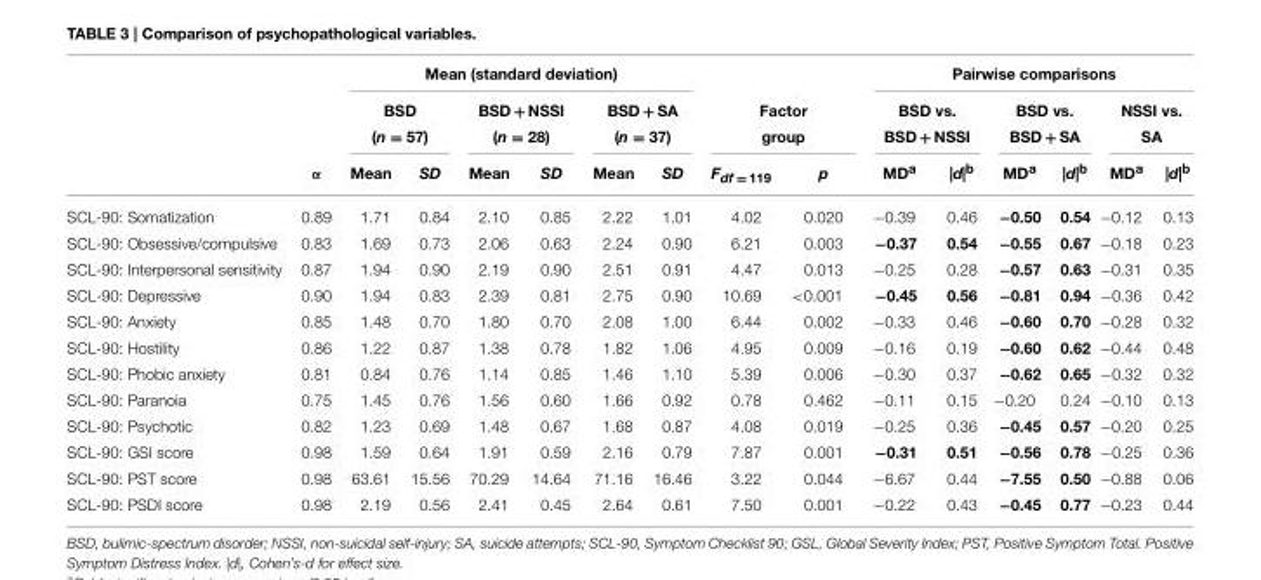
<table><thead><tr><td rowspan="3"></td><td rowspan="3">α</td><td colspan="6">Mean (standard deviation)</td><td></td><td></td><td colspan="6">Pairwise comparisons</td></tr><tr><td colspan="2">BSD (n = 57)</td><td colspan="2">BSD + NSSI (n = 28)</td><td colspan="2">BSD + SA (n = 37)</td><td colspan="2">Factor group</td><td colspan="2">BSD vs. BSD + NSSI</td><td colspan="2">BSD vs. BSD + SA</td><td colspan="2">NSSI vs. SA</td></tr><tr><td>Mean</td><td>SD</td><td>Mean</td><td>SD</td><td>Mean</td><td>SD</td><td>F<sub>df</sub> = 119</td><td>p</td><td>MD<sup>a</sup></td><td>|d|<sup>b</sup></td><td>MD<sup>a</sup></td><td>|d|<sup>b</sup></td><td>MD<sup>a</sup></td><td>|d|<sup>b</sup></td></tr></thead><tbody><tr><td>SCL-90: Somatization</td><td>0.89</td><td>1.71</td><td>0.84</td><td>2.10</td><td>0.85</td><td>2.22</td><td>1.01</td><td>4.02</td><td>0.020</td><td>−0.39</td><td>0.46</td><td>−0.50</td><td>0.54</td><td>−0.12</td><td>0.13</td></tr><tr><td>SCL-90: Obsessive/compulsive</td><td>0.83</td><td>1.69</td><td>0.73</td><td>2.06</td><td>0.63</td><td>2.24</td><td>0.90</td><td>6.21</td><td>0.003</td><td>−0.37</td><td>0.54</td><td>−0.55</td><td>0.67</td><td>−0.18</td><td>0.23</td></tr><tr><td>SCL-90: Interpersonal sensitivity</td><td>0.87</td><td>1.94</td><td>0.90</td><td>2.19</td><td>0.90</td><td>2.51</td><td>0.91</td><td>4.47</td><td>0.013</td><td>−0.25</td><td>0.28</td><td>−0.57</td><td>0.63</td><td>−0.31</td><td>0.35</td></tr><tr><td>SCL-90: Depressive</td><td>0.90</td><td>1.94</td><td>0.83</td><td>2.39</td><td>0.81</td><td>2.75</td><td>0.90</td><td>10.69</td><td>&lt;0.001</td><td>−0.45</td><td>0.56</td><td>−0.81</td><td>0.94</td><td>−0.36</td><td>0.42</td></tr><tr><td>SCL-90: Anxiety</td><td>0.85</td><td>1.48</td><td>0.70</td><td>1.80</td><td>0.70</td><td>2.08</td><td>1.00</td><td>6.44</td><td>0.002</td><td>−0.33</td><td>0.46</td><td>−0.60</td><td>0.70</td><td>−0.28</td><td>0.32</td></tr><tr><td>SCL-90: Hostility</td><td>0.86</td><td>1.22</td><td>0.87</td><td>1.38</td><td>0.78</td><td>1.82</td><td>1.06</td><td>4.95</td><td>0.009</td><td>−0.16</td><td>0.19</td><td>−0.60</td><td>0.62</td><td>−0.44</td><td>0.48</td></tr><tr><td>SCL-90: Phobic anxiety</td><td>0.81</td><td>0.84</td><td>0.76</td><td>1.14</td><td>0.85</td><td>1.46</td><td>1.10</td><td>5.39</td><td>0.006</td><td>−0.30</td><td>0.37</td><td>−0.62</td><td>0.65</td><td>−0.32</td><td>0.32</td></tr><tr><td>SCL-90: Paranoia</td><td>0.75</td><td>1.45</td><td>0.76</td><td>1.56</td><td>0.60</td><td>1.66</td><td>0.92</td><td>0.78</td><td>0.462</td><td>−0.11</td><td>0.15</td><td>−0.20</td><td>0.24</td><td>−0.10</td><td>0.13</td></tr><tr><td>SCL-90: Psychotic</td><td>0.82</td><td>1.23</td><td>0.69</td><td>1.48</td><td>0.67</td><td>1.68</td><td>0.87</td><td>4.08</td><td>0.019</td><td>−0.25</td><td>0.36</td><td>−0.45</td><td>0.57</td><td>−0.20</td><td>0.25</td></tr><tr><td>SCL-90: GSI score</td><td>0.98</td><td>1.59</td><td>0.64</td><td>1.91</td><td>0.59</td><td>2.16</td><td>0.79</td><td>7.87</td><td>0.001</td><td>−0.31</td><td>0.51</td><td>−0.56</td><td>0.78</td><td>−0.25</td><td>0.36</td></tr><tr><td>SCL-90: PST score</td><td>0.98</td><td>63.61</td><td>15.56</td><td>70.29</td><td>14.64</td><td>71.16</td><td>16.46</td><td>3.22</td><td>0.044</td><td>−6.67</td><td>0.44</td><td>−7.55</td><td>0.50</td><td>−0.88</td><td>0.06</td></tr><tr><td>SCL-90: PSDI score</td><td>0.98</td><td>2.19</td><td>0.56</td><td>2.41</td><td>0.45</td><td>2.64</td><td>0.61</td><td>7.50</td><td>0.001</td><td>−0.22</td><td>0.43</td><td>−0.45</td><td>0.77</td><td>−0.23</td><td>0.44</td></tr></tbody></table>